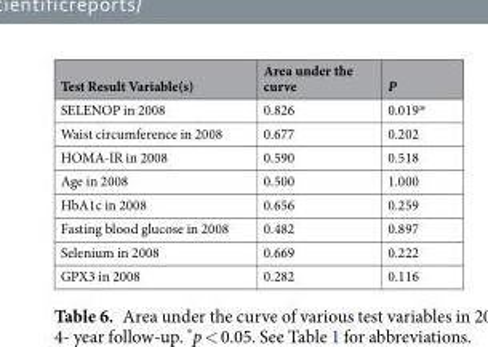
<table><thead><tr><td>Test Result Variable(s)</td><td>Area under the curve</td><td>P</td></tr></thead><tbody><tr><td>SELENOP in 2008</td><td>0.826</td><td>0.019*</td></tr><tr><td>Waist circumference in 2008</td><td>0.677</td><td>0.202</td></tr><tr><td>HOMA-IR in 2008</td><td>0.590</td><td>0.518</td></tr><tr><td>Age in 2008</td><td>0.500</td><td>1.000</td></tr><tr><td>HbA1c in 2008</td><td>0.656</td><td>0.259</td></tr><tr><td>Fasting blood glucose in 2008</td><td>0.482</td><td>0.897</td></tr><tr><td>Selenium in 2008</td><td>0.669</td><td>0.222</td></tr><tr><td>GPX3 in 2008</td><td>0.282</td><td>0.116</td></tr></tbody></table>